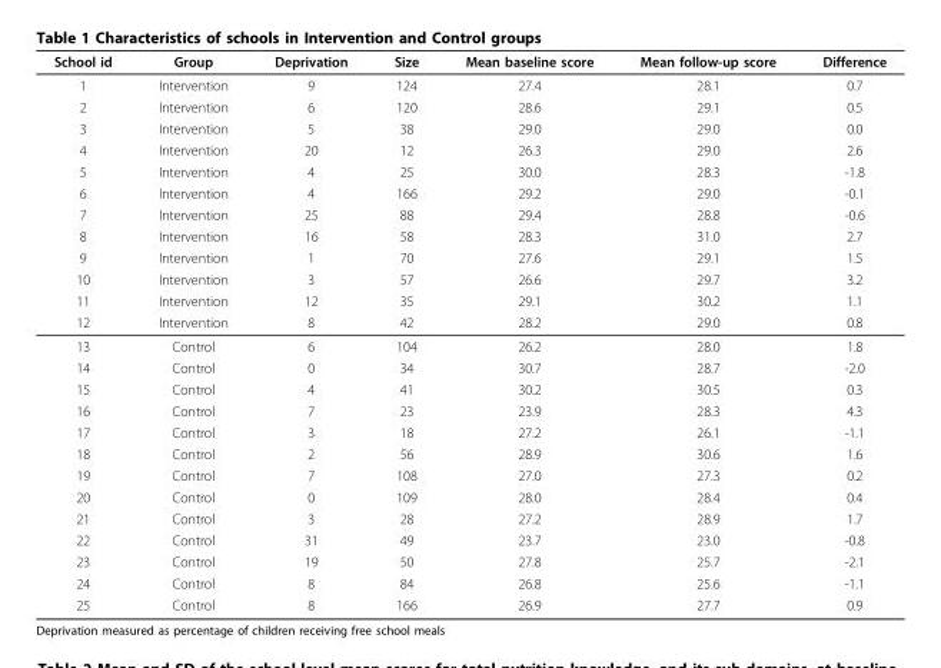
<table><thead><tr><td>School id</td><td>Group</td><td>Deprivation</td><td>Size</td><td>Mean baseline score</td><td>Mean follow-up score</td><td>Difference</td></tr></thead><tbody><tr><td>1</td><td>Intervention</td><td>9</td><td>124</td><td>27.4</td><td>28.1</td><td>0.7</td></tr><tr><td>2</td><td>Intervention</td><td>6</td><td>120</td><td>28.6</td><td>29.1</td><td>0.5</td></tr><tr><td>3</td><td>Intervention</td><td>5</td><td>38</td><td>29.0</td><td>29.0</td><td>0.0</td></tr><tr><td>4</td><td>Intervention</td><td>20</td><td>12</td><td>26.3</td><td>29.0</td><td>2.6</td></tr><tr><td>5</td><td>Intervention</td><td>4</td><td>25</td><td>30.0</td><td>28.3</td><td>-1.8</td></tr><tr><td>6</td><td>Intervention</td><td>4</td><td>166</td><td>29.2</td><td>29.0</td><td>-0.1</td></tr><tr><td>7</td><td>Intervention</td><td>25</td><td>88</td><td>29.4</td><td>28.8</td><td>-0.6</td></tr><tr><td>8</td><td>Intervention</td><td>16</td><td>58</td><td>28.3</td><td>31.0</td><td>2.7</td></tr><tr><td>9</td><td>Intervention</td><td>1</td><td>70</td><td>27.6</td><td>29.1</td><td>1.5</td></tr><tr><td>10</td><td>Intervention</td><td>3</td><td>57</td><td>26.6</td><td>29.7</td><td>3.2</td></tr><tr><td>11</td><td>Intervention</td><td>12</td><td>35</td><td>29.1</td><td>30.2</td><td>1.1</td></tr><tr><td>12</td><td>Intervention</td><td>8</td><td>42</td><td>28.2</td><td>29.0</td><td>0.8</td></tr><tr><td>13</td><td>Control</td><td>6</td><td>104</td><td>26.2</td><td>28.0</td><td>1.8</td></tr><tr><td>14</td><td>Control</td><td>0</td><td>34</td><td>30.7</td><td>28.7</td><td>-2.0</td></tr><tr><td>15</td><td>Control</td><td>4</td><td>41</td><td>30.2</td><td>30.5</td><td>0.3</td></tr><tr><td>16</td><td>Control</td><td>7</td><td>23</td><td>23.9</td><td>28.3</td><td>4.3</td></tr><tr><td>17</td><td>Control</td><td>3</td><td>18</td><td>27.2</td><td>26.1</td><td>-1.1</td></tr><tr><td>18</td><td>Control</td><td>2</td><td>56</td><td>28.9</td><td>30.6</td><td>1.6</td></tr><tr><td>19</td><td>Control</td><td>7</td><td>108</td><td>27.0</td><td>27.3</td><td>0.2</td></tr><tr><td>20</td><td>Control</td><td>0</td><td>109</td><td>28.0</td><td>28.4</td><td>0.4</td></tr><tr><td>21</td><td>Control</td><td>3</td><td>28</td><td>27.2</td><td>28.9</td><td>1.7</td></tr><tr><td>22</td><td>Control</td><td>31</td><td>49</td><td>23.7</td><td>23.0</td><td>-0.8</td></tr><tr><td>23</td><td>Control</td><td>19</td><td>50</td><td>27.8</td><td>25.7</td><td>-2.1</td></tr><tr><td>24</td><td>Control</td><td>8</td><td>84</td><td>26.8</td><td>25.6</td><td>-1.1</td></tr><tr><td>25</td><td>Control</td><td>8</td><td>166</td><td>26.9</td><td>27.7</td><td>0.9</td></tr></tbody></table>